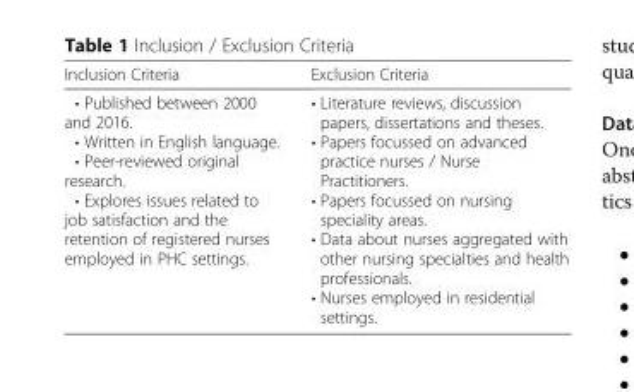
<table><thead><tr><td>Inclusion Criteria</td><td>Exclusion Criteria</td></tr></thead><tbody><tr><td>• Published between 2000 and 2016. • Written in English language. • Peer-reviewed original research. • Explores issues related to job satisfaction and the retention of registered nurses employed in PHC settings.</td><td>• Literature reviews, discussion papers, dissertations and theses. • Papers focussed on advanced practice nurses / Nurse Practitioners. • Papers focussed on nursing speciality areas. • Data about nurses aggregated with other nursing specialties and health professionals. • Nurses employed in residential settings.</td></tr></tbody></table>